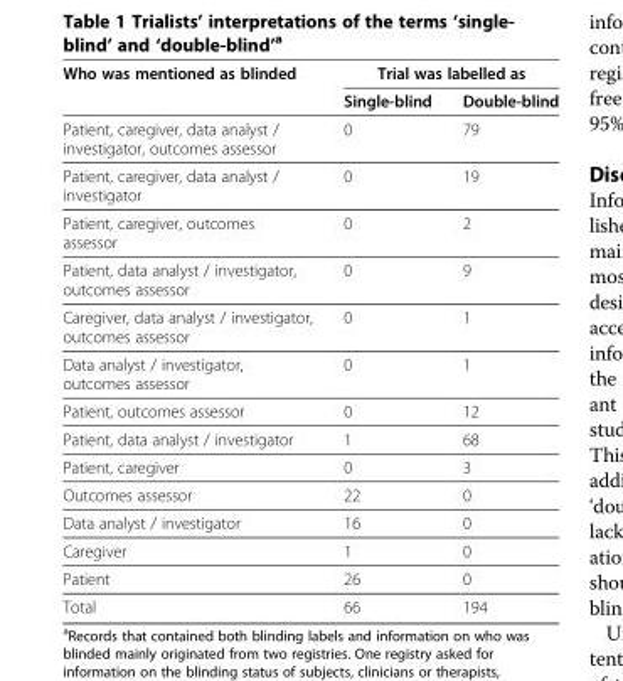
<table><thead><tr><td rowspan="2">Who was mentioned as blinded</td><td colspan="2">Trial was labelled as</td></tr><tr><td>Single-blind</td><td>Double-blind</td></tr></thead><tbody><tr><td>Patient, caregiver, data analyst / investigator, outcomes assessor</td><td>0</td><td>79</td></tr><tr><td>Patient, caregiver, data analyst / investigator</td><td>0</td><td>19</td></tr><tr><td>Patient, caregiver, outcomes assessor</td><td>0</td><td>2</td></tr><tr><td>Patient, data analyst / investigator, outcomes assessor</td><td>0</td><td>9</td></tr><tr><td>Caregiver, data analyst / investigator, outcomes assessor</td><td>0</td><td>1</td></tr><tr><td>Data analyst / investigator, outcomes assessor</td><td>0</td><td>1</td></tr><tr><td>Patient, outcomes assessor</td><td>0</td><td>12</td></tr><tr><td>Patient, data analyst / investigator</td><td>1</td><td>68</td></tr><tr><td>Patient, caregiver</td><td>0</td><td>3</td></tr><tr><td>Outcomes assessor</td><td>22</td><td>0</td></tr><tr><td>Data analyst / investigator</td><td>16</td><td>0</td></tr><tr><td>Caregiver</td><td>1</td><td>0</td></tr><tr><td>Patient</td><td>26</td><td>0</td></tr><tr><td>Total</td><td>66</td><td>194</td></tr></tbody></table>